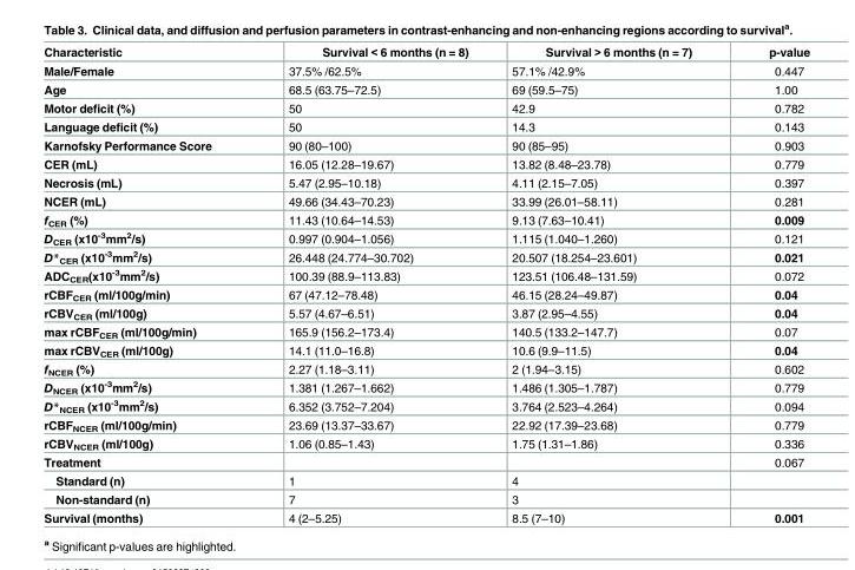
<table><thead><tr><td>Characteristic</td><td>Survival &lt; 6 months (n = 8)</td><td>Survival &gt; 6 months (n = 7)</td><td>p-value</td></tr></thead><tbody><tr><td>Male/Female</td><td>37.5% /62.5%</td><td>57.1% /42.9%</td><td>0.447</td></tr><tr><td>Age</td><td>68.5 (63.75–72.5)</td><td>69 (59.5–75)</td><td>1.00</td></tr><tr><td>Motor deficit (%)</td><td>50</td><td>42.9</td><td>0.782</td></tr><tr><td>Language deficit (%)</td><td>50</td><td>14.3</td><td>0.143</td></tr><tr><td>Karnofsky Performance Score</td><td>90 (80–100)</td><td>90 (85–95)</td><td>0.903</td></tr><tr><td>CER (mL)</td><td>16.05 (12.28–19.67)</td><td>13.82 (8.48–23.78)</td><td>0.779</td></tr><tr><td>Necrosis (mL)</td><td>5.47 (2.95–10.18)</td><td>4.11 (2.15–7.05)</td><td>0.397</td></tr><tr><td>NCER (mL)</td><td>49.66 (34.43–70.23)</td><td>33.99 (26.01–58.11)</td><td>0.281</td></tr><tr><td>f<sub>CER</sub> (%)</td><td>11.43 (10.64–14.53)</td><td>9.13 (7.63–10.41)</td><td>0.009</td></tr><tr><td>D<sub>CER</sub> (x10<sup>-3</sup>mm<sup>2</sup>/s)</td><td>0.997 (0.904–1.056)</td><td>1.115 (1.040–1.260)</td><td>0.121</td></tr><tr><td>D*<sub>CER</sub> (x10<sup>-3</sup>mm<sup>2</sup>/s)</td><td>26.448 (24.774–30.702)</td><td>20.507 (18.254–23.601)</td><td>0.021</td></tr><tr><td>ADC<sub>CER</sub>(x10<sup>-3</sup>mm<sup>2</sup>/s)</td><td>100.39 (88.9–113.83)</td><td>123.51 (106.48–131.59)</td><td>0.072</td></tr><tr><td>rCBF<sub>CER</sub> (ml/100g/min)</td><td>67 (47.12–78.48)</td><td>46.15 (28.24–49.87)</td><td>0.04</td></tr><tr><td>rCBV<sub>CER</sub> (ml/100g)</td><td>5.57 (4.67–6.51)</td><td>3.87 (2.95–4.55)</td><td>0.04</td></tr><tr><td>max rCBF<sub>CER</sub> (ml/100g/min)</td><td>165.9 (156.2–173.4)</td><td>140.5 (133.2–147.7)</td><td>0.07</td></tr><tr><td>max rCBV<sub>CER</sub> (ml/100g)</td><td>14.1 (11.0–16.8)</td><td>10.6 (9.9–11.5)</td><td>0.04</td></tr><tr><td>f<sub>NCER</sub> (%)</td><td>2.27 (1.18–3.11)</td><td>2 (1.94–3.15)</td><td>0.602</td></tr><tr><td>D<sub>NCER</sub> (x10<sup>-3</sup>mm<sup>2</sup>/s)</td><td>1.381 (1.267–1.662)</td><td>1.486 (1.305–1.787)</td><td>0.779</td></tr><tr><td>D*<sub>NCER</sub> (x10<sup>-3</sup>mm<sup>2</sup>/s)</td><td>6.352 (3.752–7.204)</td><td>3.764 (2.523–4.264)</td><td>0.094</td></tr><tr><td>rCBF<sub>NCER</sub> (ml/100g/min)</td><td>23.69 (13.37–33.67)</td><td>22.92 (17.39–23.68)</td><td>0.779</td></tr><tr><td>rCBV<sub>NCER</sub> (ml/100g)</td><td>1.06 (0.85–1.43)</td><td>1.75 (1.31–1.86)</td><td>0.336</td></tr><tr><td>Treatment</td><td></td><td></td><td>0.067</td></tr><tr><td>Standard (n)</td><td>1</td><td>4</td><td></td></tr><tr><td>Non-standard (n)</td><td>7</td><td>3</td><td></td></tr><tr><td>Survival (months)</td><td>4 (2–5.25)</td><td>8.5 (7–10)</td><td>0.001</td></tr></tbody></table>